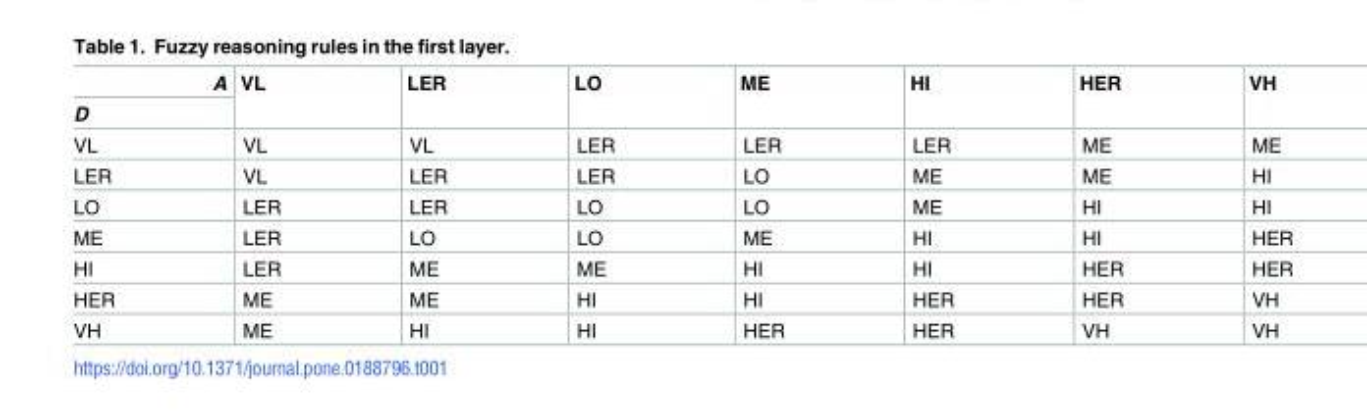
<table><thead><tr><td rowspan="2">A D</td><td rowspan="2">VL</td><td rowspan="2">LER</td><td rowspan="2">LO</td><td rowspan="2">ME</td><td rowspan="2">HI</td><td rowspan="2">HER</td><td rowspan="2">VH</td></tr><tr></tr></thead><tbody><tr><td>VL</td><td>VL</td><td>VL</td><td>LER</td><td>LER</td><td>LER</td><td>ME</td><td>ME</td></tr><tr><td>LER</td><td>VL</td><td>LER</td><td>LER</td><td>LO</td><td>ME</td><td>ME</td><td>HI</td></tr><tr><td>LO</td><td>LER</td><td>LER</td><td>LO</td><td>LO</td><td>ME</td><td>HI</td><td>HI</td></tr><tr><td>ME</td><td>LER</td><td>LO</td><td>LO</td><td>ME</td><td>HI</td><td>HI</td><td>HER</td></tr><tr><td>HI</td><td>LER</td><td>ME</td><td>ME</td><td>HI</td><td>HI</td><td>HER</td><td>HER</td></tr><tr><td>HER</td><td>ME</td><td>ME</td><td>HI</td><td>HI</td><td>HER</td><td>HER</td><td>VH</td></tr><tr><td>VH</td><td>ME</td><td>HI</td><td>HI</td><td>HER</td><td>HER</td><td>VH</td><td>VH</td></tr></tbody></table>